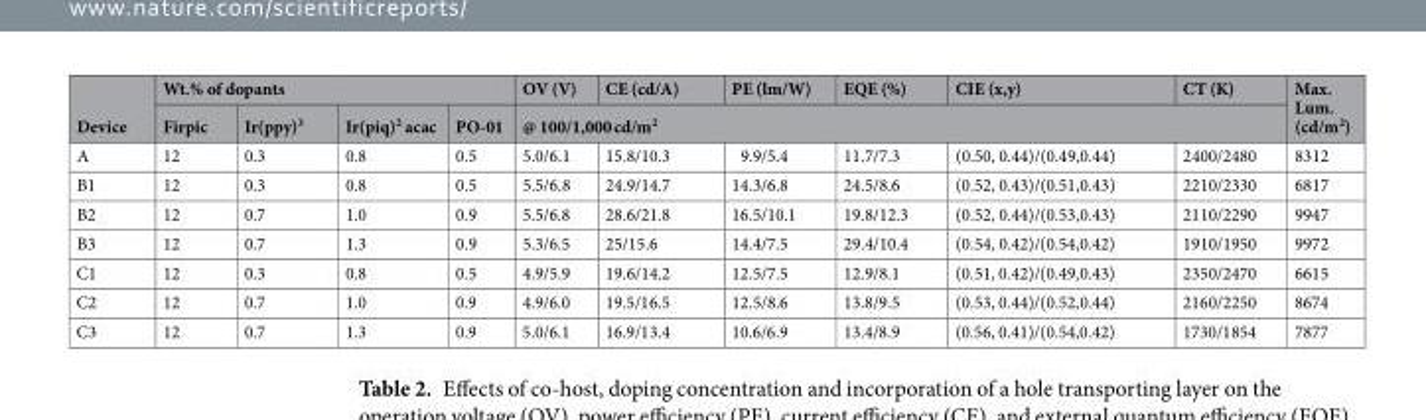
<table><thead><tr><td rowspan="2">Device</td><td colspan="4">Wt.% of dopants</td><td>OV (V)</td><td>CE (cd/A)</td><td>PE (lm/W)</td><td>EQE (%)</td><td>CIE (x,y)</td><td>CT (K)</td><td rowspan="2">Max. Lum. (cd/m<sup>2</sup>)</td></tr><tr><td>Firpic</td><td>Ir(ppy)<sup>3</sup></td><td>Ir(piq)<sup>2</sup> acac</td><td>PO-01</td><td colspan="6">@ 100/1,000 cd/m<sup>2</sup></td></tr></thead><tbody><tr><td>A</td><td>12</td><td>0.3</td><td>0.8</td><td>0.5</td><td>5.0/6.1</td><td>15.8/10.3</td><td>9.9/5.4</td><td>11.7/7.3</td><td>(0.50, 0.44)/(0.49,0.44)</td><td>2400/2480</td><td>8312</td></tr><tr><td>B1</td><td>12</td><td>0.3</td><td>0.8</td><td>0.5</td><td>5.5/6.8</td><td>24.9/14.7</td><td>14.3/6.8</td><td>24.5/8.6</td><td>(0.52, 0.43)/(0.51,0.43)</td><td>2210/2330</td><td>6817</td></tr><tr><td>B2</td><td>12</td><td>0.7</td><td>1.0</td><td>0.9</td><td>5.5/6.8</td><td>28.6/21.8</td><td>16.5/10.1</td><td>19.8/12.3</td><td>(0.52, 0.44)/(0.53,0.43)</td><td>2110/2290</td><td>9947</td></tr><tr><td>B3</td><td>12</td><td>0.7</td><td>1.3</td><td>0.9</td><td>5.3/6.5</td><td>25/15.6</td><td>14.4/7.5</td><td>29.4/10.4</td><td>(0.54, 0.42)/(0.54,0.42)</td><td>1910/1950</td><td>9972</td></tr><tr><td>C1</td><td>12</td><td>0.3</td><td>0.8</td><td>0.5</td><td>4.9/5.9</td><td>19.6/14.2</td><td>12.5/7.5</td><td>12.9/8.1</td><td>(0.51, 0.42)/(0.49,0.43)</td><td>2350/2470</td><td>6615</td></tr><tr><td>C2</td><td>12</td><td>0.7</td><td>1.0</td><td>0.9</td><td>4.9/6.0</td><td>19.5/16.5</td><td>12.5/8.6</td><td>13.8/9.5</td><td>(0.53, 0.44)/(0.52,0.44)</td><td>2160/2250</td><td>8674</td></tr><tr><td>C3</td><td>12</td><td>0.7</td><td>1.3</td><td>0.9</td><td>5.0/6.1</td><td>16.9/13.4</td><td>10.6/6.9</td><td>13.4/8.9</td><td>(0.56, 0.41)/(0.54,0.42)</td><td>1730/1854</td><td>7877</td></tr></tbody></table>